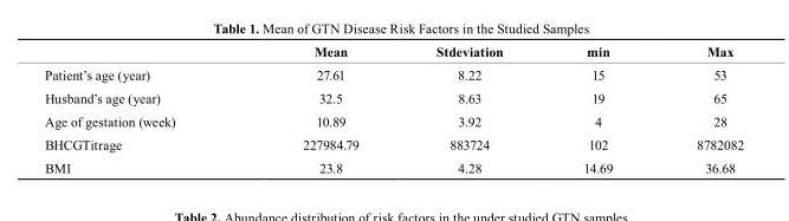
<table><thead><tr><td></td><td>Mean</td><td>stdeviation</td><td>min</td><td>Max</td></tr></thead><tbody><tr><td>Patient’s age (year)</td><td>27.61</td><td>8.22</td><td>15</td><td>53</td></tr><tr><td>Husband’s age (year)</td><td>32.5</td><td>8.63</td><td>19</td><td>65</td></tr><tr><td>Age of gestation (week)</td><td>10.89</td><td>3.92</td><td>4</td><td>28</td></tr><tr><td>BHCGTitrage</td><td>227984.79</td><td>883724</td><td>102</td><td>8782082</td></tr><tr><td>BMI</td><td>23.8</td><td>4.28</td><td>14.69</td><td>36.68</td></tr></tbody></table>